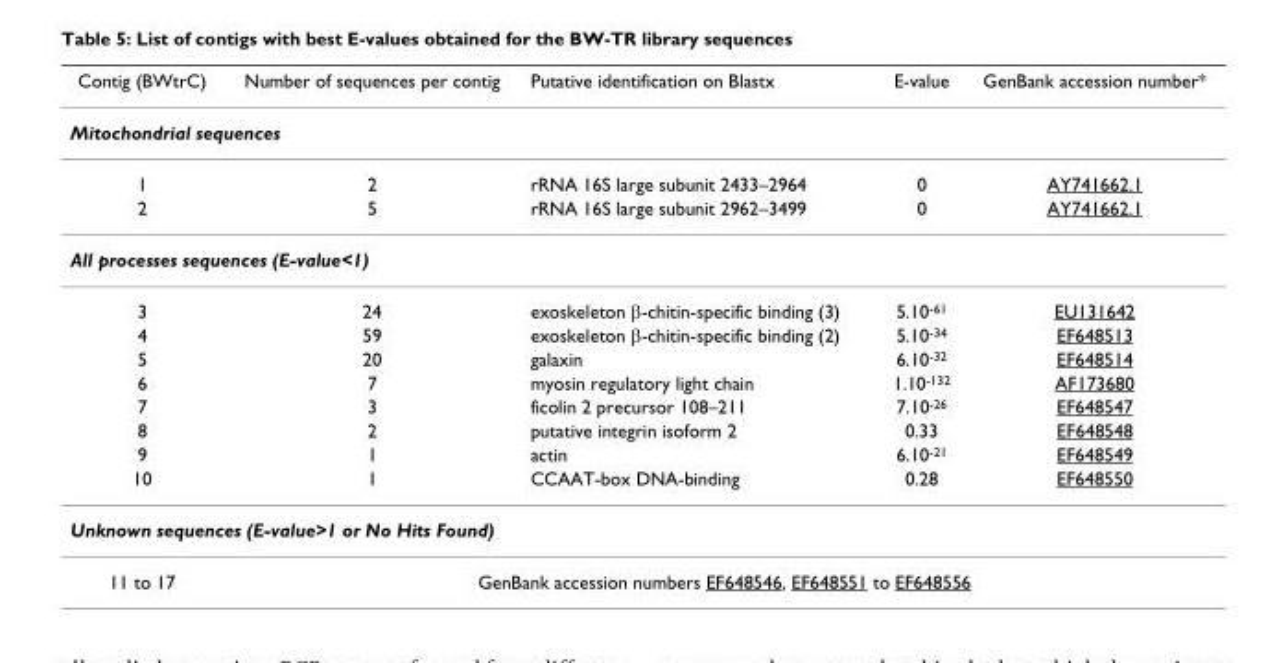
<table><thead><tr><td>Contig (BWtrC)</td><td>Number of sequences per contig</td><td>Putative identification on Blastx</td><td>E-value</td><td>GenBank accession number*</td></tr></thead><tbody><tr><td colspan="5">Mitochondrial sequences</td></tr><tr><td>1</td><td>2</td><td>rRNA 16S large subunit 2433–2964</td><td>0</td><td>AY741662.1</td></tr><tr><td>2</td><td>5</td><td>rRNA 16S large subunit 2962–3499</td><td>0</td><td>AY741662.1</td></tr><tr><td colspan="5">All processes sequences (E-value&lt;1)</td></tr><tr><td>3</td><td>24</td><td>exoskeleton β-chitin-specific binding (3)</td><td>5.10<sup>-61</sup></td><td>EU131642</td></tr><tr><td>4</td><td>59</td><td>exoskeleton β-chitin-specific binding (2)</td><td>5.10<sup>-34</sup></td><td>EF648513</td></tr><tr><td>5</td><td>20</td><td>galaxin</td><td>6.10<sup>-32</sup></td><td>EF648514</td></tr><tr><td>6</td><td>7</td><td>myosin regulatory light chain</td><td>1.10<sup>-132</sup></td><td>AF173680</td></tr><tr><td>7</td><td>3</td><td>ficolin 2 precursor 108–211</td><td>7.10<sup>-26</sup></td><td>EF648547</td></tr><tr><td>8</td><td>2</td><td>putative integrin isoform 2</td><td>0.33</td><td>EF648548</td></tr><tr><td>9</td><td>1</td><td>actin</td><td>6.10<sup>-21</sup></td><td>EF648549</td></tr><tr><td>10</td><td>1</td><td>CCAAT-box DNA-binding</td><td>0.28</td><td>EF648550</td></tr><tr><td colspan="5">Unknown sequences (E-value&gt;1 or No Hits Found)</td></tr><tr><td>11 to 17</td><td colspan="4">GenBank accession numbers EF648546, EF648551 to EF648556</td></tr></tbody></table>